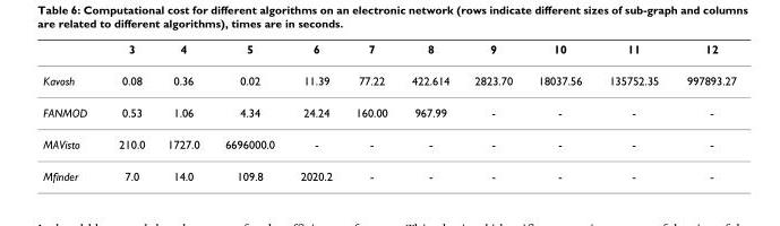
<table><thead><tr><td></td><td>3</td><td>4</td><td>5</td><td>6</td><td>7</td><td>8</td><td>9</td><td>10</td><td>11</td><td>12</td></tr></thead><tbody><tr><td>Kavosh</td><td>0.08</td><td>0.36</td><td>0.02</td><td>11.39</td><td>77.22</td><td>422.614</td><td>2823.70</td><td>18037.56</td><td>135752.35</td><td>997893.27</td></tr><tr><td>FANMOD</td><td>0.53</td><td>1.06</td><td>4.34</td><td>24.24</td><td>160.00</td><td>967.99</td><td>-</td><td>-</td><td>-</td><td>-</td></tr><tr><td>MAVisto</td><td>210.0</td><td>1727.0</td><td>6696000.0</td><td>-</td><td>-</td><td>-</td><td>-</td><td>-</td><td>-</td><td>-</td></tr><tr><td>Mfinder</td><td>7.0</td><td>14.0</td><td>109.8</td><td>2020.2</td><td>-</td><td>-</td><td>-</td><td>-</td><td>-</td><td>-</td></tr></tbody></table>